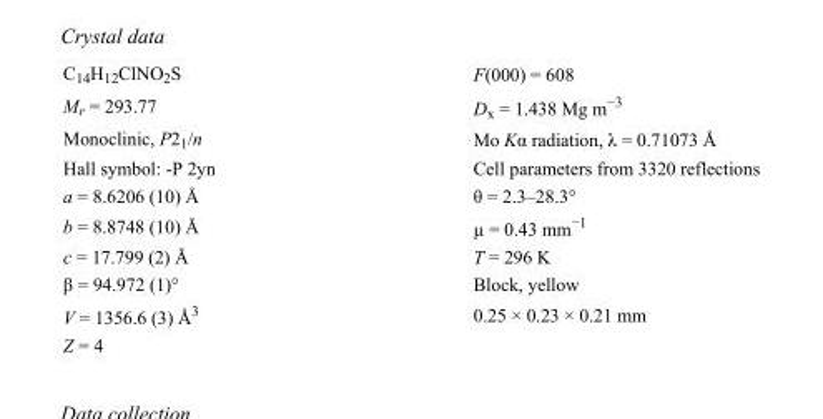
<table><tbody><tr><td>C<sub>14</sub>H<sub>12</sub>ClNO<sub>2</sub>S</td><td>F(000) = 608</td></tr><tr><td>M<sub>r</sub> = 293.77</td><td>D<sub>x</sub> = 1.438 Mg m<sup>−3</sup></td></tr><tr><td>Monoclinic, P2<sub>1</sub>/n</td><td>Mo Kα radiation, λ = 0.71073 Å</td></tr><tr><td>Hall symbol: -P 2yn</td><td>Cell parameters from 3320 reflections</td></tr><tr><td>a = 8.6206 (10) Å</td><td>θ = 2.3–28.3°</td></tr><tr><td>b = 8.8748 (10) Å</td><td>µ = 0.43 mm<sup>−1</sup></td></tr><tr><td>c = 17.799 (2) Å</td><td>T = 296 K</td></tr><tr><td>β = 94.972 (1)°</td><td>Block, yellow</td></tr><tr><td>V = 1356.6 (3) Å<sup>3</sup></td><td>0.25 × 0.23 × 0.21 mm</td></tr><tr><td>Z = 4</td><td></td></tr></tbody></table>